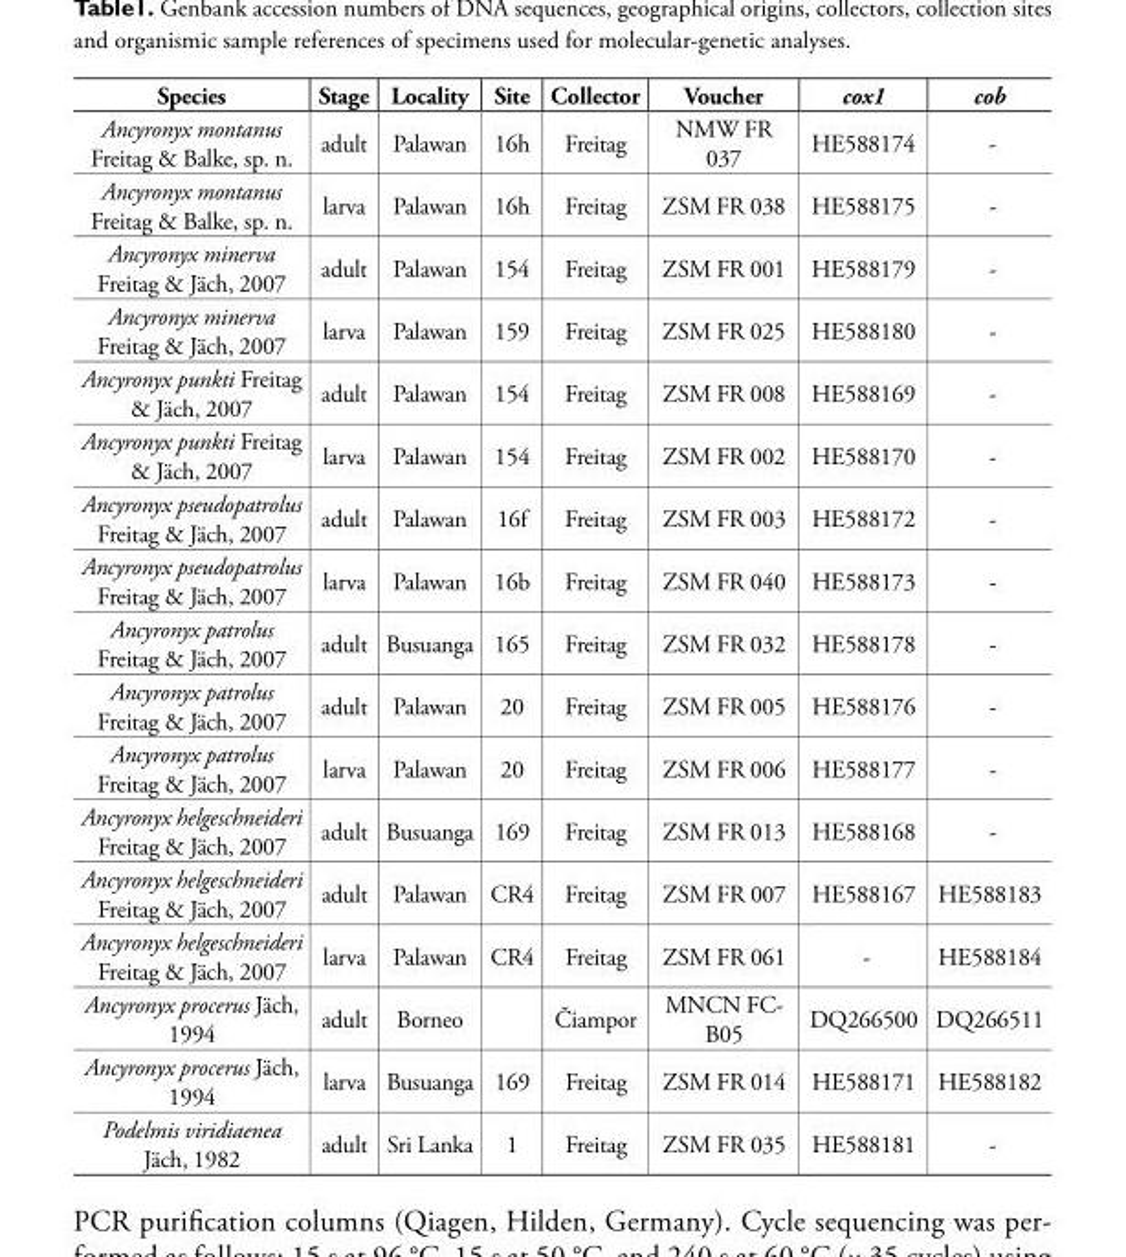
<table><tbody><tr><td>Species</td><td>Stage</td><td>Locality</td><td>Site</td><td>Collector</td><td>Voucher</td><td>cox1</td><td>cob</td></tr><tr><td>Ancyronyx montanus Freitag &amp; Balke, sp. n.</td><td>adult</td><td>Palawan</td><td>16h</td><td>Freitag</td><td>NMW FR 037</td><td>HE588174</td><td>-</td></tr><tr><td>Ancyronyx montanus Freitag &amp; Balke, sp. n.</td><td>larva</td><td>Palawan</td><td>16h</td><td>Freitag</td><td>ZSM FR 038</td><td>HE588175</td><td>-</td></tr><tr><td>Ancyronyx minerva Freitag &amp; Jäch, 2007</td><td>adult</td><td>Palawan</td><td>154</td><td>Freitag</td><td>ZSM FR 001</td><td>HE588179</td><td>-</td></tr><tr><td>Ancyronyx minerva Freitag &amp; Jäch, 2007</td><td>larva</td><td>Palawan</td><td>159</td><td>Freitag</td><td>ZSM FR 025</td><td>HE588180</td><td>-</td></tr><tr><td>Ancyronyx punkti Freitag &amp; Jäch, 2007</td><td>adult</td><td>Palawan</td><td>154</td><td>Freitag</td><td>ZSM FR 008</td><td>HE588169</td><td>-</td></tr><tr><td>Ancyronyx punkti Freitag &amp; Jäch, 2007</td><td>larva</td><td>Palawan</td><td>154</td><td>Freitag</td><td>ZSM FR 002</td><td>HE588170</td><td>-</td></tr><tr><td>Ancyronyx pseudopatrolus Freitag &amp; Jäch, 2007</td><td>adult</td><td>Palawan</td><td>16f</td><td>Freitag</td><td>ZSM FR 003</td><td>HE588172</td><td>-</td></tr><tr><td>Ancyronyx pseudopatrolus Freitag &amp; Jäch, 2007</td><td>larva</td><td>Palawan</td><td>16b</td><td>Freitag</td><td>ZSM FR 040</td><td>HE588173</td><td>-</td></tr><tr><td>Ancyronyx patrolus Freitag &amp; Jäch, 2007</td><td>adult</td><td>Busuanga</td><td>165</td><td>Freitag</td><td>ZSM FR 032</td><td>HE588178</td><td>-</td></tr><tr><td>Ancyronyx patrolus Freitag &amp; Jäch, 2007</td><td>adult</td><td>Palawan</td><td>20</td><td>Freitag</td><td>ZSM FR 005</td><td>HE588176</td><td>-</td></tr><tr><td>Ancyronyx patrolus Freitag &amp; Jäch, 2007</td><td>larva</td><td>Palawan</td><td>20</td><td>Freitag</td><td>ZSM FR 006</td><td>HE588177</td><td>-</td></tr><tr><td>Ancyronyx helgeschneideri Freitag &amp; Jäch, 2007</td><td>adult</td><td>Busuanga</td><td>169</td><td>Freitag</td><td>ZSM FR 013</td><td>HE588168</td><td>-</td></tr><tr><td>Ancyronyx helgeschneideri Freitag &amp; Jäch, 2007</td><td>adult</td><td>Palawan</td><td>CR4</td><td>Freitag</td><td>ZSM FR 007</td><td>HE588167</td><td>HE588183</td></tr><tr><td>Ancyronyx helgeschneideri Freitag &amp; Jäch, 2007</td><td>larva</td><td>Palawan</td><td>CR4</td><td>Freitag</td><td>ZSM FR 061</td><td>-</td><td>HE588184</td></tr><tr><td>Ancyronyx procerus Jäch, 1994</td><td>adult</td><td>Borneo</td><td></td><td>Čiampor</td><td>MNCN FC- B05</td><td>DQ266500</td><td>DQ266511</td></tr><tr><td>Ancyronyx procerus Jäch, 1994</td><td>larva</td><td>Busuanga</td><td>169</td><td>Freitag</td><td>ZSM FR 014</td><td>HE588171</td><td>HE588182</td></tr><tr><td>Podelmis viridiaenea Jäch, 1982</td><td>adult</td><td>Sri Lanka</td><td>1</td><td>Freitag</td><td>ZSM FR 035</td><td>HE588181</td><td>-</td></tr></tbody></table>